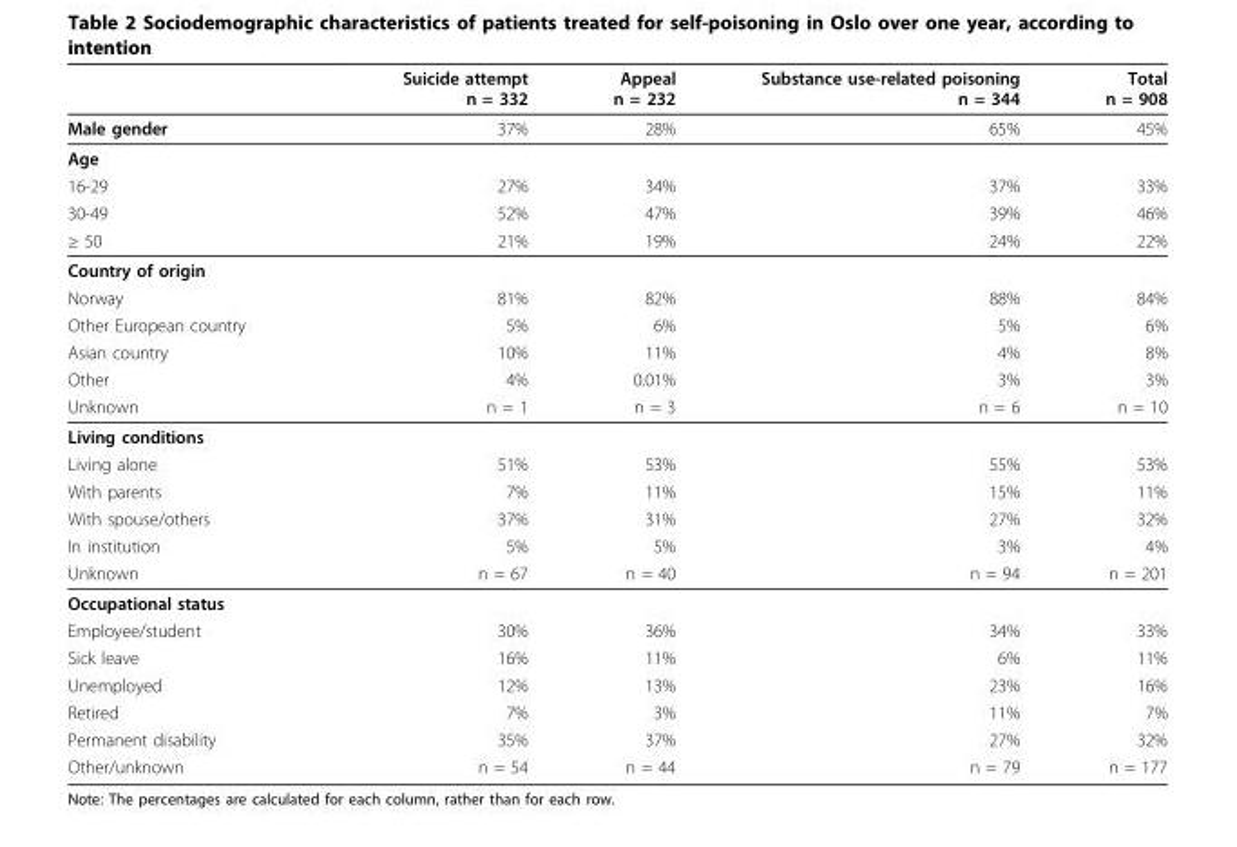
<table><thead><tr><td></td><td>Suicide attempt n = 332</td><td>Appeal n = 232</td><td>Substance use-related poisoning n = 344</td><td>Total n = 908</td></tr></thead><tbody><tr><td>Male gender</td><td>37%</td><td>28%</td><td>65%</td><td>45%</td></tr><tr><td colspan="5">Age</td></tr><tr><td>16-29</td><td>27%</td><td>34%</td><td>37%</td><td>33%</td></tr><tr><td>30-49</td><td>52%</td><td>47%</td><td>39%</td><td>46%</td></tr><tr><td>≥ 50</td><td>21%</td><td>19%</td><td>24%</td><td>22%</td></tr><tr><td colspan="5">Country of origin</td></tr><tr><td>Norway</td><td>81%</td><td>82%</td><td>88%</td><td>84%</td></tr><tr><td>Other European country</td><td>5%</td><td>6%</td><td>5%</td><td>6%</td></tr><tr><td>Asian country</td><td>10%</td><td>11%</td><td>4%</td><td>8%</td></tr><tr><td>Other</td><td>4%</td><td>0.01%</td><td>3%</td><td>3%</td></tr><tr><td>Unknown</td><td>n = 1</td><td>n = 3</td><td>n = 6</td><td>n = 10</td></tr><tr><td colspan="5">Living conditions</td></tr><tr><td>Living alone</td><td>51%</td><td>53%</td><td>55%</td><td>53%</td></tr><tr><td>With parents</td><td>7%</td><td>11%</td><td>15%</td><td>11%</td></tr><tr><td>With spouse/others</td><td>37%</td><td>31%</td><td>27%</td><td>32%</td></tr><tr><td>In institution</td><td>5%</td><td>5%</td><td>3%</td><td>4%</td></tr><tr><td>Unknown</td><td>n = 67</td><td>n = 40</td><td>n = 94</td><td>n = 201</td></tr><tr><td colspan="5">Occupational status</td></tr><tr><td>Employee/student</td><td>30%</td><td>36%</td><td>34%</td><td>33%</td></tr><tr><td>Sick leave</td><td>16%</td><td>11%</td><td>6%</td><td>11%</td></tr><tr><td>Unemployed</td><td>12%</td><td>13%</td><td>23%</td><td>16%</td></tr><tr><td>Retired</td><td>7%</td><td>3%</td><td>11%</td><td>7%</td></tr><tr><td>Permanent disability</td><td>35%</td><td>37%</td><td>27%</td><td>32%</td></tr><tr><td>Other/unknown</td><td>n = 54</td><td>n = 44</td><td>n = 79</td><td>n = 177</td></tr></tbody></table>